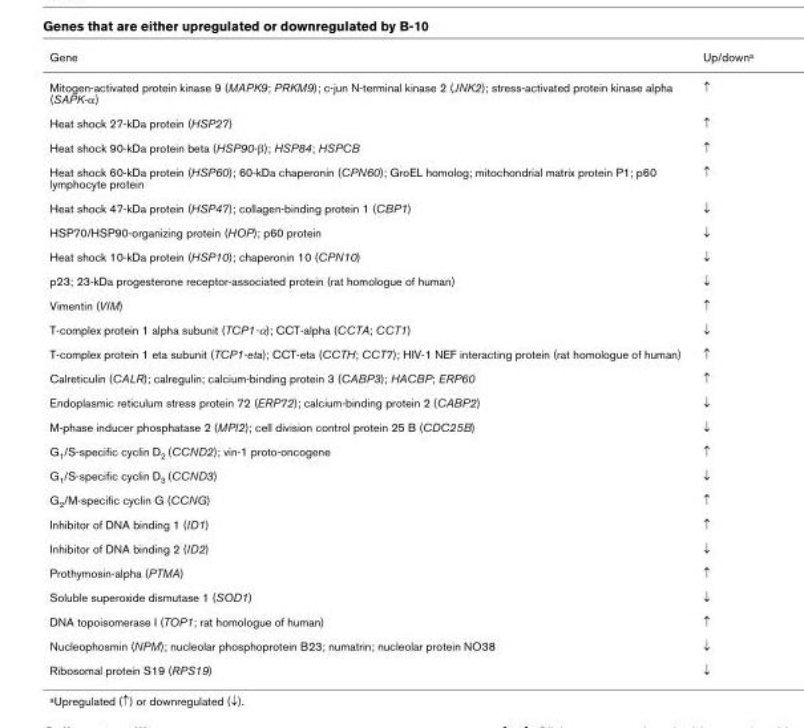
<table><thead><tr><td>Gene</td><td>Up/downa</td></tr></thead><tbody><tr><td>Mitogen-activated protein kinase 9 (MAPK9; PRKM9); c-jun N-terminal kinase 2 (JNK2); stress-activated protein kinase alpha (SAPK-α)</td><td>↑</td></tr><tr><td>Heat shock 27-kDa protein (HSP27)</td><td>↑</td></tr><tr><td>Heat shock 90-kDa protein beta (HSP90-β); HSP84; HSPCB</td><td>↑</td></tr><tr><td>Heat shock 60-kDa protein (HSP60); 60-kDa chaperonin (CPN60); GroEL homolog; mitochondrial matrix protein P1; p60 lymphocyte protein</td><td>↑</td></tr><tr><td>Heat shock 47-kDa protein (HSP47); collagen-binding protein 1 (CBP1)</td><td>↓</td></tr><tr><td>HSP70/HSP90-organizing protein (HOP); p60 protein</td><td>↓</td></tr><tr><td>Heat shock 10-kDa protein (HSP10); chaperonin 10 (CPN10)</td><td>↓</td></tr><tr><td>p23; 23-kDa progesterone receptor-associated protein (rat homologue of human)</td><td>↓</td></tr><tr><td>Vimentin (VIM)</td><td>↑</td></tr><tr><td>T-complex protein 1 alpha subunit (TCP1-α); CCT-alpha (CCTA; CCT1)</td><td>↓</td></tr><tr><td>T-complex protein 1 eta subunit (TCP1-eta); CCT-eta (CCTH; CCT7); HIV-1 NEF interacting protein (rat homologue of human)</td><td>↑</td></tr><tr><td>Calreticulin (CALR); calregulin; calcium-binding protein 3 (CABP3); HACBP; ERP60</td><td>↑</td></tr><tr><td>Endoplasmic reticulum stress protein 72 (ERP72); calcium-binding protein 2 (CABP2)</td><td>↓</td></tr><tr><td>M-phase inducer phosphatase 2 (MPI2); cell division control protein 25 B (CDC25B)</td><td>↓</td></tr><tr><td>G1/S-specific cyclin D2 (CCND2); vin-1 proto-oncogene</td><td>↑</td></tr><tr><td>G1/S-specific cyclin D3 (CCND3)</td><td>↓</td></tr><tr><td>G2/M-specific cyclin G (CCNG)</td><td>↑</td></tr><tr><td>Inhibitor of DNA binding 1 (ID1)</td><td>↑</td></tr><tr><td>Inhibitor of DNA binding 2 (ID2)</td><td>↓</td></tr><tr><td>Prothymosin-alpha (PTMA)</td><td>↑</td></tr><tr><td>Soluble superoxide dismutase 1 (SOD1)</td><td>↓</td></tr><tr><td>DNA topoisomerase I (TOP1; rat homologue of human)</td><td>↑</td></tr><tr><td>Nucleophosmin (NPM); nucleolar phosphoprotein B23; numatrin; nucleolar protein NO38</td><td>↓</td></tr><tr><td>Ribosomal protein S19 (RPS19)</td><td>↓</td></tr></tbody></table>